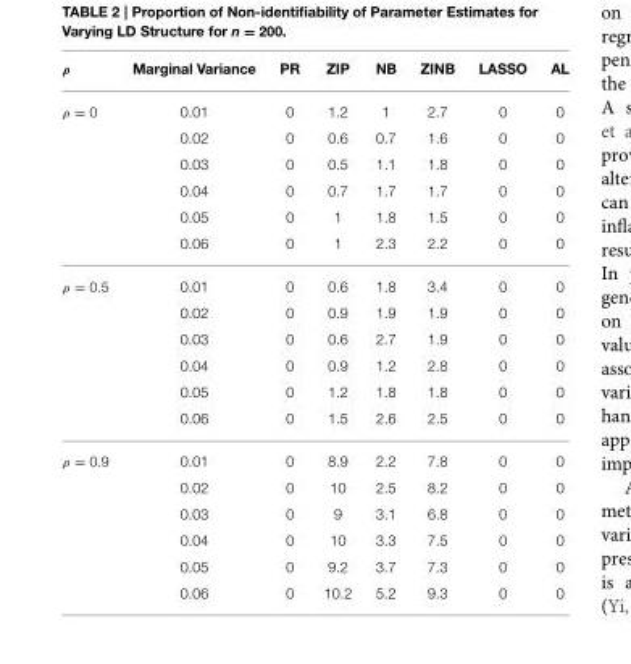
<table><thead><tr><td>ρ</td><td>Marginal Variance</td><td>PR</td><td>ZIP</td><td>NB</td><td>ZINB</td><td>LASSO</td><td>AL</td></tr></thead><tbody><tr><td rowspan="6">ρ = 0</td><td>0.01</td><td>0</td><td>1.2</td><td>1</td><td>2.7</td><td>0</td><td>0</td></tr><tr><td>0.02</td><td>0</td><td>0.6</td><td>0.7</td><td>1.6</td><td>0</td><td>0</td></tr><tr><td>0.03</td><td>0</td><td>0.5</td><td>1.1</td><td>1.8</td><td>0</td><td>0</td></tr><tr><td>0.04</td><td>0</td><td>0.7</td><td>1.7</td><td>1.7</td><td>0</td><td>0</td></tr><tr><td>0.05</td><td>0</td><td>1</td><td>1.8</td><td>1.5</td><td>0</td><td>0</td></tr><tr><td>0.06</td><td>0</td><td>1</td><td>2.3</td><td>2.2</td><td>0</td><td>0</td></tr><tr><td rowspan="6">ρ = 0.5</td><td>0.01</td><td>0</td><td>0.6</td><td>1.8</td><td>3.4</td><td>0</td><td>0</td></tr><tr><td>0.02</td><td>0</td><td>0.9</td><td>1.9</td><td>1.9</td><td>0</td><td>0</td></tr><tr><td>0.03</td><td>0</td><td>0.6</td><td>2.7</td><td>1.9</td><td>0</td><td>0</td></tr><tr><td>0.04</td><td>0</td><td>0.9</td><td>1.2</td><td>2.8</td><td>0</td><td>0</td></tr><tr><td>0.05</td><td>0</td><td>1.2</td><td>1.8</td><td>1.8</td><td>0</td><td>0</td></tr><tr><td>0.06</td><td>0</td><td>1.5</td><td>2.6</td><td>2.5</td><td>0</td><td>0</td></tr><tr><td rowspan="6">ρ = 0.9</td><td>0.01</td><td>0</td><td>8.9</td><td>2.2</td><td>7.8</td><td>0</td><td>0</td></tr><tr><td>0.02</td><td>0</td><td>10</td><td>2.5</td><td>8.2</td><td>0</td><td>0</td></tr><tr><td>0.03</td><td>0</td><td>9</td><td>3.1</td><td>6.8</td><td>0</td><td>0</td></tr><tr><td>0.04</td><td>0</td><td>10</td><td>3.3</td><td>7.5</td><td>0</td><td>0</td></tr><tr><td>0.05</td><td>0</td><td>9.2</td><td>3.7</td><td>7.3</td><td>0</td><td>0</td></tr><tr><td>0.06</td><td>0</td><td>10.2</td><td>5.2</td><td>9.3</td><td>0</td><td>0</td></tr></tbody></table>